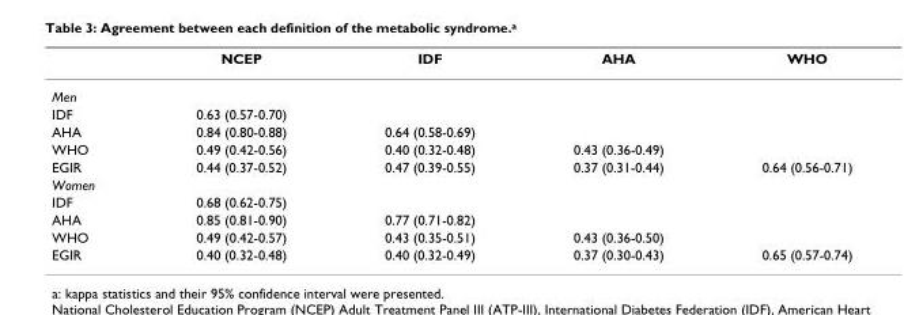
<table><thead><tr><td></td><td>NCEP</td><td>IDF</td><td>AHA</td><td>WHO</td></tr></thead><tbody><tr><td colspan="5">Men</td></tr><tr><td>IDF</td><td>0.63 (0.57-0.70)</td><td></td><td></td><td></td></tr><tr><td>AHA</td><td>0.84 (0.80-0.88)</td><td>0.64 (0.58-0.69)</td><td></td><td></td></tr><tr><td>WHO</td><td>0.49 (0.42-0.56)</td><td>0.40 (0.32-0.48)</td><td>0.43 (0.36-0.49)</td><td></td></tr><tr><td>EGIR</td><td>0.44 (0.37-0.52)</td><td>0.47 (0.39-0.55)</td><td>0.37 (0.31-0.44)</td><td>0.64 (0.56-0.71)</td></tr><tr><td colspan="5">Women</td></tr><tr><td>IDF</td><td>0.68 (0.62-0.75)</td><td></td><td></td><td></td></tr><tr><td>AHA</td><td>0.85 (0.81-0.90)</td><td>0.77 (0.71-0.82)</td><td></td><td></td></tr><tr><td>WHO</td><td>0.49 (0.42-0.57)</td><td>0.43 (0.35-0.51)</td><td>0.43 (0.36-0.50)</td><td></td></tr><tr><td>EGIR</td><td>0.40 (0.32-0.48)</td><td>0.40 (0.32-0.49)</td><td>0.37 (0.30-0.43)</td><td>0.65 (0.57-0.74)</td></tr></tbody></table>